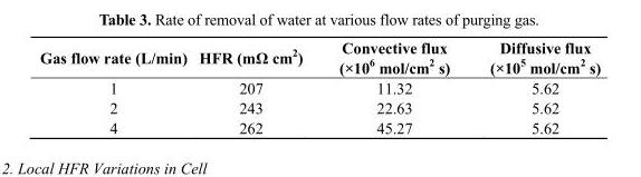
<table><thead><tr><td>Gas flow rate (L/min)</td><td>HFR (mΩ cm<sup>2</sup>)</td><td>Convective flux (×10<sup>6</sup> mol/cm<sup>2</sup> s)</td><td>Diffusive flux (×10<sup>5</sup> mol/cm<sup>2</sup> s)</td></tr></thead><tbody><tr><td>1</td><td>207</td><td>11.32</td><td>5.62</td></tr><tr><td>2</td><td>243</td><td>22.63</td><td>5.62</td></tr><tr><td>4</td><td>262</td><td>45.27</td><td>5.62</td></tr></tbody></table>